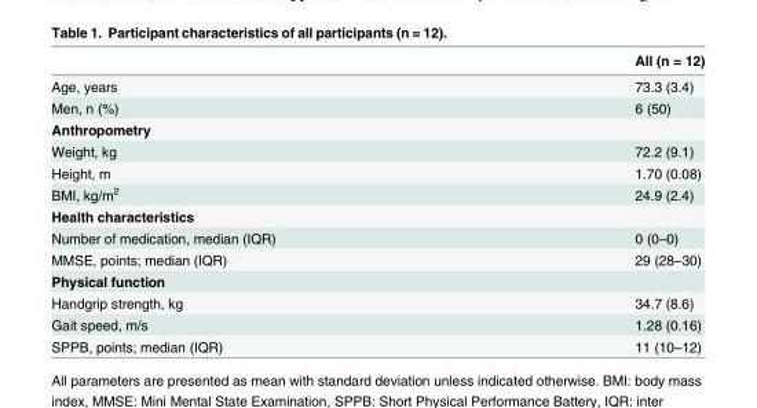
<table><thead><tr><td></td><td>All (n = 12)</td></tr></thead><tbody><tr><td>Age, years</td><td>73.3 (3.4)</td></tr><tr><td>Men, n (%)</td><td>6 (50)</td></tr><tr><td colspan="2">Anthropometry</td></tr><tr><td>Weight, kg</td><td>72.2 (9.1)</td></tr><tr><td>Height, m</td><td>1.70 (0.08)</td></tr><tr><td>BMI, kg/m<sup>2</sup></td><td>24.9 (2.4)</td></tr><tr><td colspan="2">Health characteristics</td></tr><tr><td>Number of medication, median (IQR)</td><td>0 (0–0)</td></tr><tr><td>MMSE, points; median (IQR)</td><td>29 (28–30)</td></tr><tr><td colspan="2">Physical function</td></tr><tr><td>Handgrip strength, kg</td><td>34.7 (8.6)</td></tr><tr><td>Gait speed, m/s</td><td>1.28 (0.16)</td></tr><tr><td>SPPB, points; median (IQR)</td><td>11 (10–12)</td></tr></tbody></table>